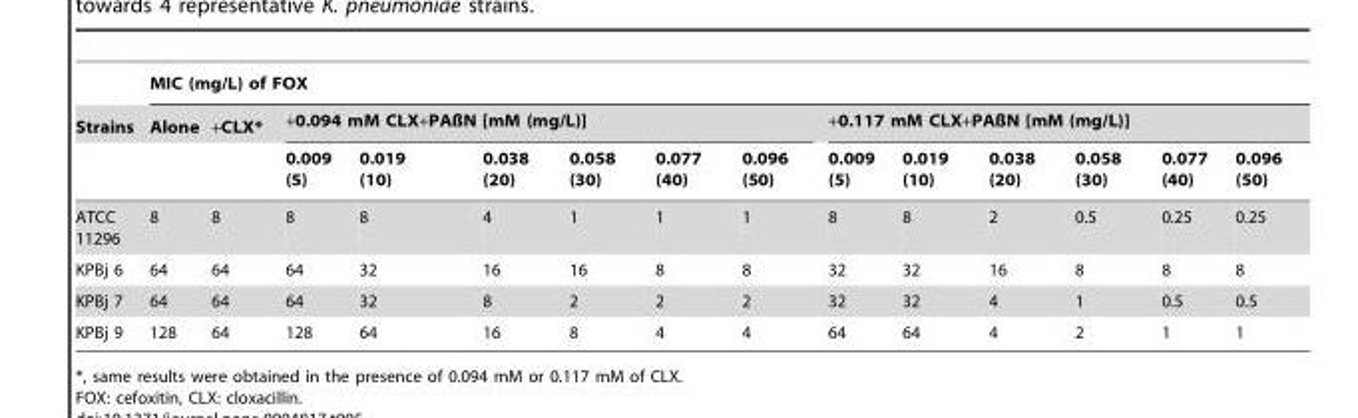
<table><thead><tr><td rowspan="3">Strains</td><td colspan="14">MIC (mg/L) of FOX</td></tr><tr><td rowspan="2">Alone</td><td rowspan="2">+CLX*</td><td colspan="6">+0.094 mM CLX+PAßN [mM (mg/L)]</td><td colspan="6">+0.117 mM CLX+PAßN [mM (mg/L)]</td></tr><tr><td>0.009 (5)</td><td>0.019 (10)</td><td>0.038 (20)</td><td>0.058 (30)</td><td>0.077 (40)</td><td>0.096 (50)</td><td>0.009 (5)</td><td>0.019 (10)</td><td>0.038 (20)</td><td>0.058 (30)</td><td>0.077 (40)</td><td>0.096 (50)</td></tr></thead><tbody><tr><td>ATCC 11296</td><td>8</td><td>8</td><td>8</td><td>8</td><td>4</td><td>1</td><td>1</td><td>1</td><td>8</td><td>8</td><td>2</td><td>0.5</td><td>0.25</td><td>0.25</td></tr><tr><td>KPBj 6</td><td>64</td><td>64</td><td>64</td><td>32</td><td>16</td><td>16</td><td>8</td><td>8</td><td>32</td><td>32</td><td>16</td><td>8</td><td>8</td><td>8</td></tr><tr><td>KPBj 7</td><td>64</td><td>64</td><td>64</td><td>32</td><td>8</td><td>2</td><td>2</td><td>2</td><td>32</td><td>32</td><td>4</td><td>1</td><td>0.5</td><td>0.5</td></tr><tr><td>KPBj 9</td><td>128</td><td>64</td><td>128</td><td>64</td><td>16</td><td>8</td><td>4</td><td>4</td><td>64</td><td>64</td><td>4</td><td>2</td><td>1</td><td>1</td></tr></tbody></table>